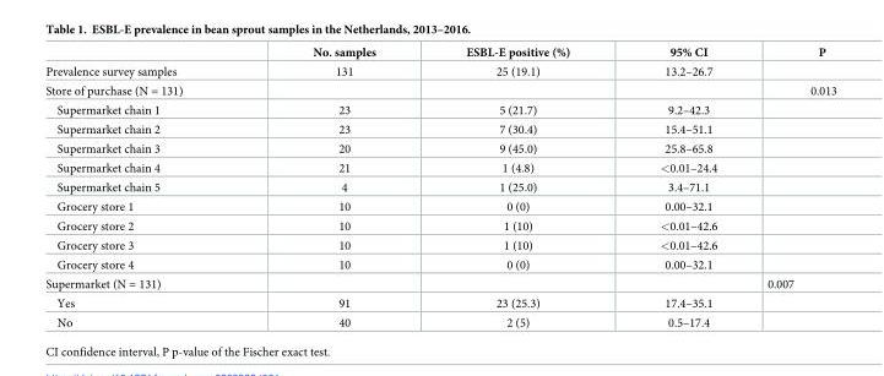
<table><thead><tr><td></td><td>No. samples</td><td>ESBL-E positive (%)</td><td>95% CI</td><td>P</td></tr></thead><tbody><tr><td>Prevalence survey samples</td><td>131</td><td>25 (19.1)</td><td>13.2–26.7</td><td></td></tr><tr><td>Store of purchase (N = 131)</td><td></td><td></td><td></td><td>0.013</td></tr><tr><td>Supermarket chain 1</td><td>23</td><td>5 (21.7)</td><td>9.2–42.3</td><td></td></tr><tr><td>Supermarket chain 2</td><td>23</td><td>7 (30.4)</td><td>15.4–51.1</td><td></td></tr><tr><td>Supermarket chain 3</td><td>20</td><td>9 (45.0)</td><td>25.8–65.8</td><td></td></tr><tr><td>Supermarket chain 4</td><td>21</td><td>1 (4.8)</td><td>&lt;0.01–24.4</td><td></td></tr><tr><td>Supermarket chain 5</td><td>4</td><td>1 (25.0)</td><td>3.4–71.1</td><td></td></tr><tr><td>Grocery store 1</td><td>10</td><td>0 (0)</td><td>0.00–32.1</td><td></td></tr><tr><td>Grocery store 2</td><td>10</td><td>1 (10)</td><td>&lt;0.01–42.6</td><td></td></tr><tr><td>Grocery store 3</td><td>10</td><td>1 (10)</td><td>&lt;0.01–42.6</td><td></td></tr><tr><td>Grocery store 4</td><td>10</td><td>0 (0)</td><td>0.00–32.1</td><td></td></tr><tr><td>Supermarket (N = 131)</td><td></td><td></td><td></td><td>0.007</td></tr><tr><td>Yes</td><td>91</td><td>23 (25.3)</td><td>17.4–35.1</td><td></td></tr><tr><td>No</td><td>40</td><td>2 (5)</td><td>0.5–17.4</td><td></td></tr></tbody></table>